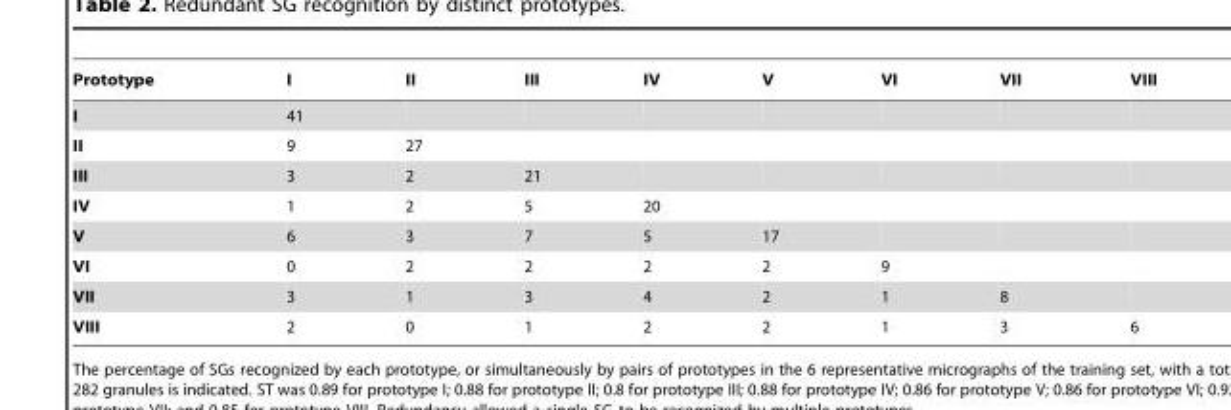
<table><thead><tr><td>Prototype</td><td>I</td><td>II</td><td>III</td><td>IV</td><td>V</td><td>VI</td><td>VII</td><td>VIII</td></tr></thead><tbody><tr><td>I</td><td>41</td><td></td><td></td><td></td><td></td><td></td><td></td><td></td></tr><tr><td>II</td><td>9</td><td>27</td><td></td><td></td><td></td><td></td><td></td><td></td></tr><tr><td>III</td><td>3</td><td>2</td><td>21</td><td></td><td></td><td></td><td></td><td></td></tr><tr><td>IV</td><td>1</td><td>2</td><td>5</td><td>20</td><td></td><td></td><td></td><td></td></tr><tr><td>V</td><td>6</td><td>3</td><td>7</td><td>5</td><td>17</td><td></td><td></td><td></td></tr><tr><td>VI</td><td>0</td><td>2</td><td>2</td><td>2</td><td>2</td><td>9</td><td></td><td></td></tr><tr><td>VII</td><td>3</td><td>1</td><td>3</td><td>4</td><td>2</td><td>1</td><td>8</td><td></td></tr><tr><td>VIII</td><td>2</td><td>0</td><td>1</td><td>2</td><td>2</td><td>1</td><td>3</td><td>6</td></tr></tbody></table>